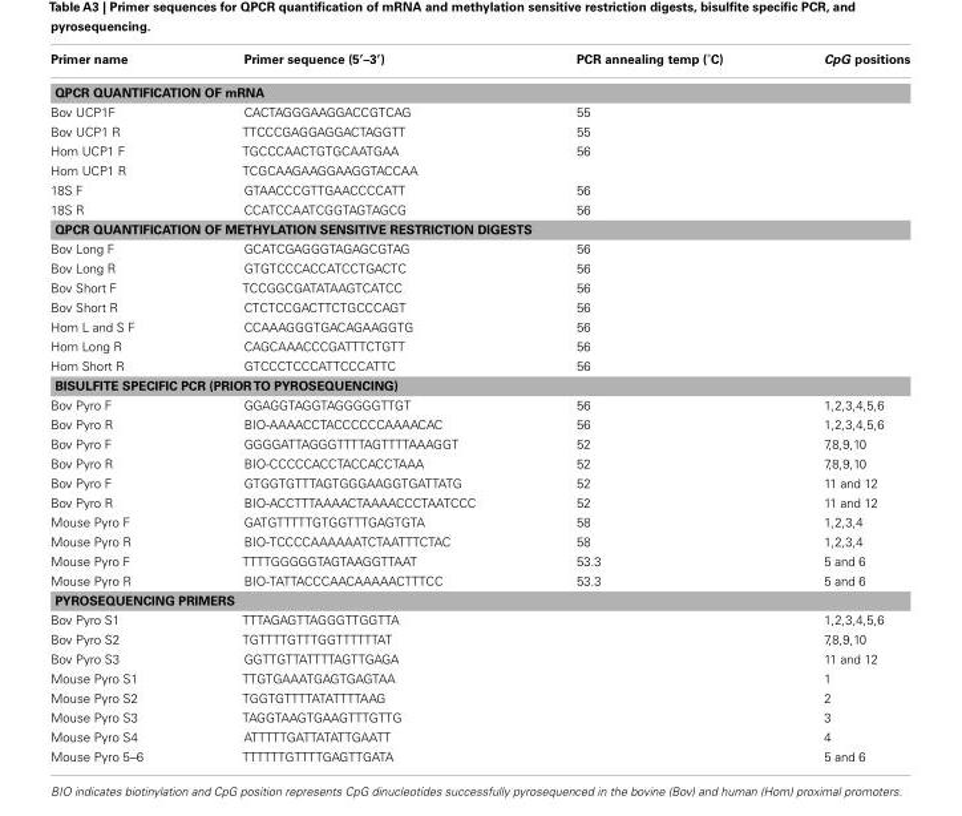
<table><thead><tr><td>Primer name</td><td>Primer sequence (5′–3′)</td><td>PCR annealing temp (˚C)</td><td>CpG positions</td></tr></thead><tbody><tr><td colspan="4">QPCR QUANTIFICATION OF mRNA</td></tr><tr><td>Bov UCP1F</td><td>CACTAGGGAAGGACCGTCAG</td><td>55</td><td></td></tr><tr><td>Bov UCP1 R</td><td>TTCCCGAGGAGGACTAGGTT</td><td>55</td><td></td></tr><tr><td>Hom UCP1 F</td><td>TGCCCAACTGTGCAATGAA</td><td>56</td><td></td></tr><tr><td>Hom UCP1 R</td><td>TCGCAAGAAGGAAGGTACCAA</td><td></td><td></td></tr><tr><td>18S F</td><td>GTAACCCGTTGAACCCCATT</td><td>56</td><td></td></tr><tr><td>18S R</td><td>CCATCCAATCGGTAGTAGCG</td><td>56</td><td></td></tr><tr><td colspan="4">QPCR QUANTIFICATION OF METHYLATION SENSITIVE RESTRICTION DIGESTS</td></tr><tr><td>Bov Long F</td><td>GCATCGAGGGTAGAGCGTAG</td><td>56</td><td></td></tr><tr><td>Bov Long R</td><td>GTGTCCCACCATCCTGACTC</td><td>56</td><td></td></tr><tr><td>Bov Short F</td><td>TCCGGCGATATAAGTCATCC</td><td>56</td><td></td></tr><tr><td>Bov Short R</td><td>CTCTCCGACTTCTGCCCAGT</td><td>56</td><td></td></tr><tr><td>Hom L and S F</td><td>CCAAAGGGTGACAGAAGGTG</td><td>56</td><td></td></tr><tr><td>Hom Long R</td><td>CAGCAAACCCGATTTCTGTT</td><td>56</td><td></td></tr><tr><td>Hom Short R</td><td>GTCCCTCCCATTCCCATTC</td><td>56</td><td></td></tr><tr><td colspan="4">BISULFITE SPECIFIC PCR (PRIORTO PYROSEQUENCING)</td></tr><tr><td>Bov Pyro F</td><td>GGAGGTAGGTAGGGGGTTGT</td><td>56</td><td>1,2,3,4,5,6</td></tr><tr><td>Bov Pyro R</td><td>BIO-AAAACCTACCCCCCAAAACAC</td><td>56</td><td>1,2,3,4,5,6</td></tr><tr><td>Bov Pyro F</td><td>GGGGATTAGGGTTTTAGTTTTAAAGGT</td><td>52</td><td>7,8,9,10</td></tr><tr><td>Bov Pyro R</td><td>BIO-CCCCCACCTACCACCTAAA</td><td>52</td><td>7,8,9,10</td></tr><tr><td>Bov Pyro F</td><td>GTGGTGTTTAGTGGGAAGGTGATTATG</td><td>52</td><td>11 and 12</td></tr><tr><td>Bov Pyro R</td><td>BIO-ACCTTTAAAACTAAAACCCTAATCCC</td><td>52</td><td>11 and 12</td></tr><tr><td>Mouse Pyro F</td><td>GATGTTTTTGTGGTTTGAGTGTA</td><td>58</td><td>1,2,3,4</td></tr><tr><td>Mouse Pyro R</td><td>BIO-TCCCCAAAAAATCTAATTTCTAC</td><td>58</td><td>1,2,3,4</td></tr><tr><td>Mouse Pyro F</td><td>TTTTGGGGGTAGTAAGGTTAAT</td><td>53.3</td><td>5 and 6</td></tr><tr><td>Mouse Pyro R</td><td>BIO-TATTACCCAACAAAAACTTTCC</td><td>53.3</td><td>5 and 6</td></tr><tr><td colspan="4">PYROSEQUENCING PRIMERS</td></tr><tr><td>Bov Pyro S1</td><td>TTTAGAGTTAGGGTTGGTTA</td><td></td><td>1,2,3,4,5,6</td></tr><tr><td>Bov Pyro S2</td><td>TGTTTTGTTTGGTTTTTTAT</td><td></td><td>7,8,9,10</td></tr><tr><td>Bov Pyro S3</td><td>GGTTGTTATTTTAGTTGAGA</td><td></td><td>11 and 12</td></tr><tr><td>Mouse Pyro S1</td><td>TTGTGAAATGAGTGAGTAA</td><td></td><td>1</td></tr><tr><td>Mouse Pyro S2</td><td>TGGTGTTTTATATTTTAAG</td><td></td><td>2</td></tr><tr><td>Mouse Pyro S3</td><td>TAGGTAAGTGAAGTTTGTTG</td><td></td><td>3</td></tr><tr><td>Mouse Pyro S4</td><td>ATTTTTGATTATATTGAATT</td><td></td><td>4</td></tr><tr><td>Mouse Pyro 5–6</td><td>TTTTTTGTTTTGAGTTGATA</td><td></td><td>5 and 6</td></tr></tbody></table>